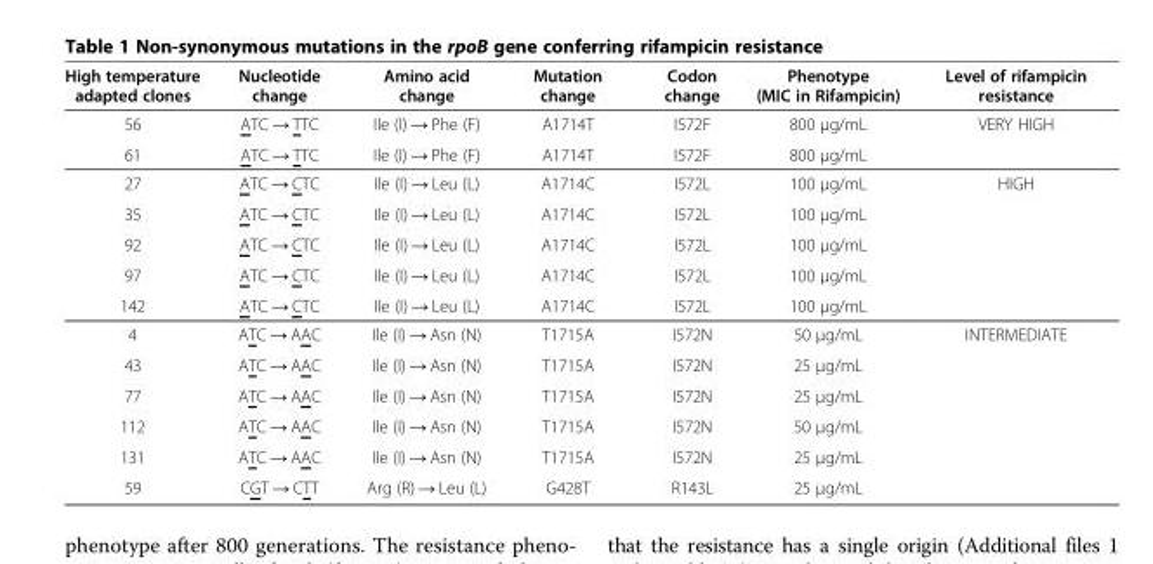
<table><thead><tr><td>High temperature adapted clones</td><td>Nucleotide change</td><td>Amino acid change</td><td>Mutation change</td><td>Codon change</td><td>Phenotype (MIC in Rifampicin)</td><td>Level of rifampicin resistance</td></tr></thead><tbody><tr><td>56</td><td>ATC → TTC</td><td>Ile (I) → Phe (F)</td><td>A1714T</td><td>I572F</td><td>800 μg/mL</td><td>VERY HIGH</td></tr><tr><td>61</td><td>ATC → TTC</td><td>Ile (I) → Phe (F)</td><td>A1714T</td><td>I572F</td><td>800 μg/mL</td><td></td></tr><tr><td>27</td><td>ATC → CTC</td><td>Ile (I) → Leu (L)</td><td>A1714C</td><td>I572L</td><td>100 μg/mL</td><td rowspan="4">HIGH</td></tr><tr><td>35</td><td>ATC → CTC</td><td>Ile (I) → Leu (L)</td><td>A1714C</td><td>I572L</td><td>100 μg/mL</td></tr><tr><td>92</td><td>ATC → CTC</td><td>Ile (I) → Leu (L)</td><td>A1714C</td><td>I572L</td><td>100 μg/mL</td></tr><tr><td>97</td><td>ATC → CTC</td><td>Ile (I) → Leu (L)</td><td>A1714C</td><td>I572L</td><td>100 μg/mL</td></tr><tr><td>142</td><td>ATC → CTC</td><td>Ile (I) → Leu (L)</td><td>A1714C</td><td>I572L</td><td>100 μg/mL</td><td></td></tr><tr><td>4</td><td>ATC → AAC</td><td>Ile (I) → Asn (N)</td><td>T1715A</td><td>I572N</td><td>50 μg/mL</td><td rowspan="5">INTERMEDIATE</td></tr><tr><td>43</td><td>ATC → AAC</td><td>Ile (I) → Asn (N)</td><td>T1715A</td><td>I572N</td><td>25 μg/mL</td></tr><tr><td>77</td><td>ATC → AAC</td><td>Ile (I) → Asn (N)</td><td>T1715A</td><td>I572N</td><td>25 μg/mL</td></tr><tr><td>112</td><td>ATC → AAC</td><td>Ile (I) → Asn (N)</td><td>T1715A</td><td>I572N</td><td>50 μg/mL</td></tr><tr><td>131</td><td>ATC → AAC</td><td>Ile (I) → Asn (N)</td><td>T1715A</td><td>I572N</td><td>25 μg/mL</td></tr><tr><td>59</td><td>CGT → CTT</td><td>Arg (R) → Leu (L)</td><td>G428T</td><td>R143L</td><td>25 μg/mL</td><td></td></tr></tbody></table>